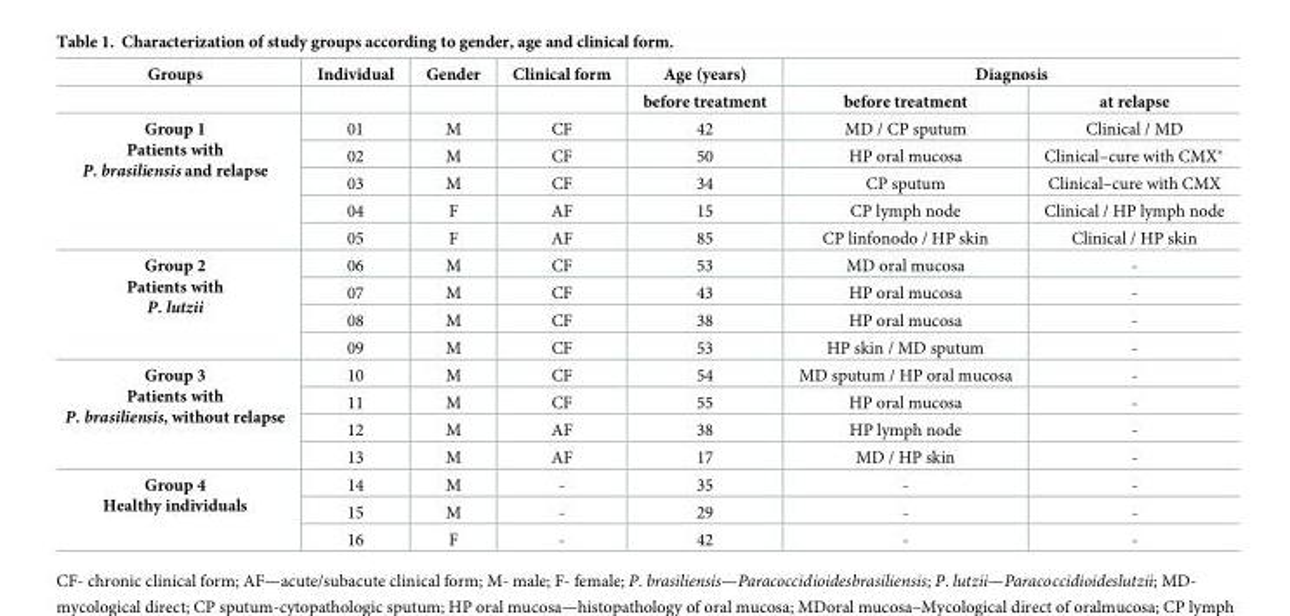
<table><thead><tr><td rowspan="2">Groups</td><td rowspan="2">Individual</td><td rowspan="2">Gender</td><td rowspan="2">Clinical form</td><td rowspan="2">Age (years) before treatment</td><td colspan="2">Diagnosis</td></tr><tr><td>before treatment</td><td>at relapse</td></tr></thead><tbody><tr><td rowspan="5">Group 1 Patients with P. brasiliensis and relapse</td><td>01</td><td>M</td><td>CF</td><td>42</td><td>MD / CP sputum</td><td>Clinical / MD</td></tr><tr><td>02</td><td>M</td><td>CF</td><td>50</td><td>HP oral mucosa</td><td>Clinical–cure with CMX*</td></tr><tr><td>03</td><td>M</td><td>CF</td><td>34</td><td>CP sputum</td><td>Clinical–cure with CMX</td></tr><tr><td>04</td><td>F</td><td>AF</td><td>15</td><td>CP lymph node</td><td>Clinical / HP lymph node</td></tr><tr><td>05</td><td>F</td><td>AF</td><td>85</td><td>CP linfonodo / HP skin</td><td>Clinical / HP skin</td></tr><tr><td rowspan="4">Group 2 Patients with P. lutzii</td><td>06</td><td>M</td><td>CF</td><td>53</td><td>MD oral mucosa</td><td>-</td></tr><tr><td>07</td><td>M</td><td>CF</td><td>43</td><td>HP oral mucosa</td><td>-</td></tr><tr><td>08</td><td>M</td><td>CF</td><td>38</td><td>HP oral mucosa</td><td>-</td></tr><tr><td>09</td><td>M</td><td>CF</td><td>53</td><td>HP skin / MD sputum</td><td>-</td></tr><tr><td rowspan="4">Group 3 Patients with P. brasiliensis, without relapse</td><td>10</td><td>M</td><td>CF</td><td>54</td><td>MD sputum / HP oral mucosa</td><td>-</td></tr><tr><td>11</td><td>M</td><td>CF</td><td>55</td><td>HP oral mucosa</td><td>-</td></tr><tr><td>12</td><td>M</td><td>AF</td><td>38</td><td>HP lymph node</td><td>-</td></tr><tr><td>13</td><td>M</td><td>AF</td><td>17</td><td>MD / HP skin</td><td>-</td></tr><tr><td rowspan="3">Group 4 Healthy individuals</td><td>14</td><td>M</td><td>-</td><td>35</td><td>-</td><td>-</td></tr><tr><td>15</td><td>M</td><td>-</td><td>29</td><td>-</td><td>-</td></tr><tr><td>16</td><td>F</td><td>-</td><td>42</td><td>-</td><td>-</td></tr></tbody></table>